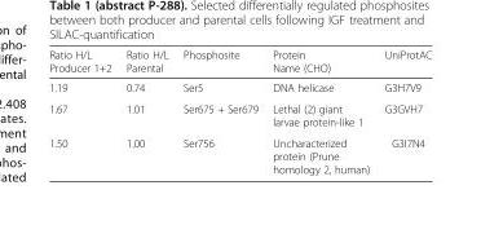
<table><thead><tr><td>Ratio H/L Producer 1+2</td><td>Ratio H/L Parental</td><td>Phosphosite</td><td>Protein Name (CHO)</td><td>UniProtAC</td></tr></thead><tbody><tr><td>1.19</td><td>0.74</td><td>Ser5</td><td>DNA helicase</td><td>G3H7V9</td></tr><tr><td>1.67</td><td>1.01</td><td>Ser675 + Ser679</td><td>Lethal (2) giant larvae protein-like 1</td><td>G3GVH7</td></tr><tr><td>1.50</td><td>1.00</td><td>Ser756</td><td>Uncharacterized protein (Prune homology 2, human)</td><td>G3I7N4</td></tr></tbody></table>